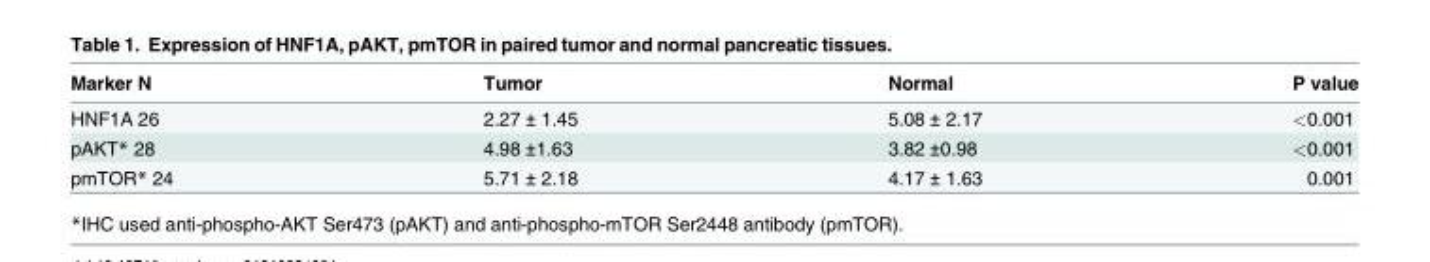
<table><thead><tr><td>Marker N</td><td>Tumor</td><td>Normal</td><td>P value</td></tr></thead><tbody><tr><td>HNF1A 26</td><td>2.27 ± 1.45</td><td>5.08 ± 2.17</td><td>&lt;0.001</td></tr><tr><td>pAKT* 28</td><td>4.98 ±1.63</td><td>3.82 ±0.98</td><td>&lt;0.001</td></tr><tr><td>pmTOR* 24</td><td>5.71 ± 2.18</td><td>4.17 ± 1.63</td><td>0.001</td></tr></tbody></table>